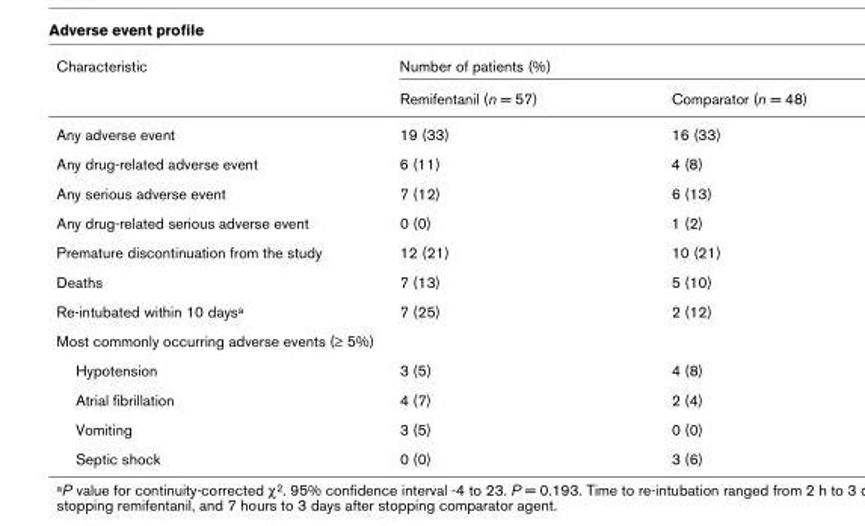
<table><thead><tr><td rowspan="2">Characteristic</td><td colspan="2">Number of patients (%)</td></tr><tr><td>Remifentanil (n = 57)</td><td>Comparator (n = 48)</td></tr></thead><tbody><tr><td>Any adverse event</td><td>19 (33)</td><td>16 (33)</td></tr><tr><td>Any drug-related adverse event</td><td>6 (11)</td><td>4 (8)</td></tr><tr><td>Any serious adverse event</td><td>7 (12)</td><td>6 (13)</td></tr><tr><td>Any drug-related serious adverse event</td><td>0 (0)</td><td>1 (2)</td></tr><tr><td>Premature discontinuation from the study</td><td>12 (21)</td><td>10 (21)</td></tr><tr><td>Deaths</td><td>7 (13)</td><td>5 (10)</td></tr><tr><td>Re-intubated within 10 daysa</td><td>7 (25)</td><td>2 (12)</td></tr><tr><td colspan="3">Most commonly occurring adverse events (≥ 5%)</td></tr><tr><td>Hypotension</td><td>3 (5)</td><td>4 (8)</td></tr><tr><td>Atrial fibrillation</td><td>4 (7)</td><td>2 (4)</td></tr><tr><td>Vomiting</td><td>3 (5)</td><td>0 (0)</td></tr><tr><td>Septic shock</td><td>0 (0)</td><td>3 (6)</td></tr></tbody></table>